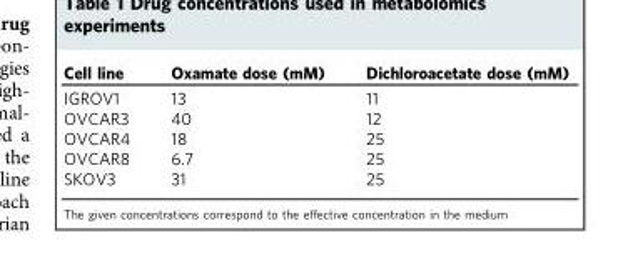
<table><thead><tr><td>Cell line</td><td>Oxamate dose (mM)</td><td>Dichloroacetate dose (mM)</td></tr></thead><tbody><tr><td>IGROV1</td><td>13</td><td>11</td></tr><tr><td>OVCAR3</td><td>40</td><td>12</td></tr><tr><td>OVCAR4</td><td>18</td><td>25</td></tr><tr><td>OVCAR8</td><td>6.7</td><td>25</td></tr><tr><td>SKOV3</td><td>31</td><td>25</td></tr></tbody></table>